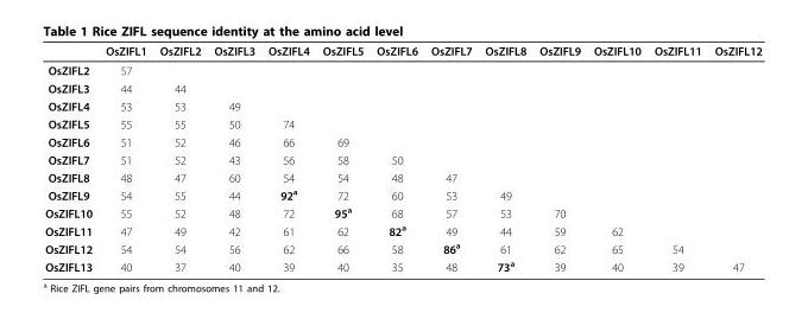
<table><thead><tr><td></td><td>OsZIFL1</td><td>OsZIFL2</td><td>OsZIFL3</td><td>OsZIFL4</td><td>OsZIFL5</td><td>OsZIFL6</td><td>OsZIFL7</td><td>OsZIFL8</td><td>OsZIFL9</td><td>OsZIFL10</td><td>OsZIFL11</td><td>OsZIFL12</td></tr></thead><tbody><tr><td>OsZIFL2</td><td>57</td><td></td><td></td><td></td><td></td><td></td><td></td><td></td><td></td><td></td><td></td><td></td></tr><tr><td>OsZIFL3</td><td>44</td><td>44</td><td></td><td></td><td></td><td></td><td></td><td></td><td></td><td></td><td></td><td></td></tr><tr><td>OsZIFL4</td><td>53</td><td>53</td><td>49</td><td></td><td></td><td></td><td></td><td></td><td></td><td></td><td></td><td></td></tr><tr><td>OsZIFL5</td><td>55</td><td>55</td><td>50</td><td>74</td><td></td><td></td><td></td><td></td><td></td><td></td><td></td><td></td></tr><tr><td>OsZIFL6</td><td>51</td><td>52</td><td>46</td><td>66</td><td>69</td><td></td><td></td><td></td><td></td><td></td><td></td><td></td></tr><tr><td>OsZIFL7</td><td>51</td><td>52</td><td>43</td><td>56</td><td>58</td><td>50</td><td></td><td></td><td></td><td></td><td></td><td></td></tr><tr><td>OsZIFL8</td><td>48</td><td>47</td><td>60</td><td>54</td><td>54</td><td>48</td><td>47</td><td></td><td></td><td></td><td></td><td></td></tr><tr><td>OsZIFL9</td><td>54</td><td>55</td><td>44</td><td>92<sup>a</sup></td><td>72</td><td>60</td><td>53</td><td>49</td><td></td><td></td><td></td><td></td></tr><tr><td>OsZIFL10</td><td>55</td><td>52</td><td>48</td><td>72</td><td>95<sup>a</sup></td><td>68</td><td>57</td><td>53</td><td>70</td><td></td><td></td><td></td></tr><tr><td>OsZIFL11</td><td>47</td><td>49</td><td>42</td><td>61</td><td>62</td><td>82<sup>a</sup></td><td>49</td><td>44</td><td>59</td><td>62</td><td></td><td></td></tr><tr><td>OsZIFL12</td><td>54</td><td>54</td><td>56</td><td>62</td><td>66</td><td>58</td><td>86<sup>a</sup></td><td>61</td><td>62</td><td>65</td><td>54</td><td></td></tr><tr><td>OsZIFL13</td><td>40</td><td>37</td><td>40</td><td>39</td><td>40</td><td>35</td><td>48</td><td>73<sup>a</sup></td><td>39</td><td>40</td><td>39</td><td>47</td></tr></tbody></table>